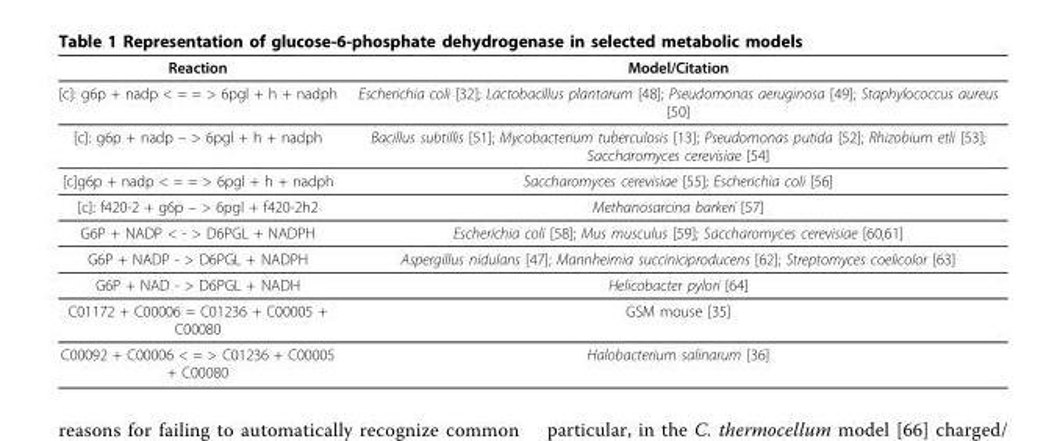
<table><thead><tr><td>Reaction</td><td>Model/Citation</td></tr></thead><tbody><tr><td>[c]: g6p + nadp &lt; = = &gt; 6pgl + h + nadph</td><td>Escherichia coli [32]; Lactobacillus plantarum [48]; Pseudomonas aeruginosa [49]; Staphylococcus aureus [50]</td></tr><tr><td>[c]: g6p + nadp – &gt; 6pgl + h + nadph</td><td>Bacillus subtillis [51]; Mycobacterium tuberculosis [13]; Pseudomonas putida [52]; Rhizobium etli [53]; Saccharomyces cerevisiae [54]</td></tr><tr><td>[c]g6p + nadp &lt; = = &gt; 6pgl + h + nadph</td><td>Saccharomyces cerevisiae [55]; Escherichia coli [56]</td></tr><tr><td>[c]: f420-2 + g6p – &gt; 6pgl + f420-2h2</td><td>Methanosarcina barkeri [57]</td></tr><tr><td>G6P + NADP &lt; - &gt; D6PGL + NADPH</td><td>Escherichia coli [58]; Mus musculus [59]; Saccharomyces cerevisiae [60,61]</td></tr><tr><td>G6P + NADP - &gt; D6PGL + NADPH</td><td>Aspergillus nidulans [47]; Mannheimia succiniciproducens [62]; Streptomyces coelicolor [63]</td></tr><tr><td>G6P + NAD - &gt; D6PGL + NADH</td><td>Helicobacter pylori [64]</td></tr><tr><td>C01172 + C00006 = C01236 + C00005 + C00080</td><td>GSM mouse [35]</td></tr><tr><td>C00092 + C00006 &lt; = &gt; C01236 + C00005 + C00080</td><td>Halobacterium salinarum [36]</td></tr></tbody></table>